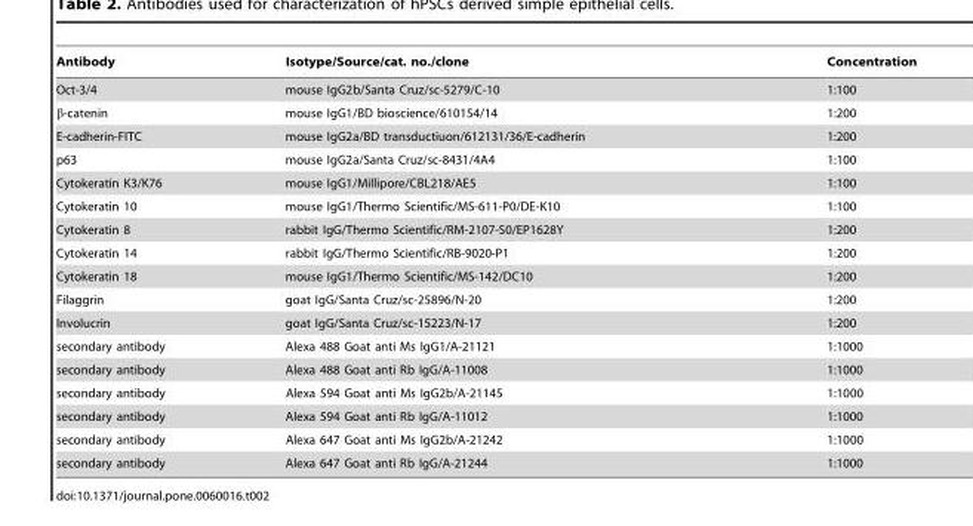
<table><thead><tr><td>Antibody</td><td>Isotype/Source/cat. no./clone</td><td>Concentration</td></tr></thead><tbody><tr><td>Oct-3/4</td><td>mouse IgG2b/Santa Cruz/sc-5279/C-10</td><td>1:100</td></tr><tr><td>β-catenin</td><td>mouse IgG1/BD bioscience/610154/14</td><td>1:200</td></tr><tr><td>E-cadherin-FITC</td><td>mouse IgG2a/BD transductiuon/612131/36/E-cadherin</td><td>1:200</td></tr><tr><td>p63</td><td>mouse IgG2a/Santa Cruz/sc-8431/4A4</td><td>1:100</td></tr><tr><td>Cytokeratin K3/K76</td><td>mouse IgG1/Millipore/CBL218/AE5</td><td>1:100</td></tr><tr><td>Cytokeratin 10</td><td>mouse IgG1/Thermo Scientific/MS-611-P0/DE-K10</td><td>1:100</td></tr><tr><td>Cytokeratin 8</td><td>rabbit IgG/Thermo Scientific/RM-2107-S0/EP1628Y</td><td>1:200</td></tr><tr><td>Cytokeratin 14</td><td>rabbit IgG/Thermo Scientific/RB-9020-P1</td><td>1:200</td></tr><tr><td>Cytokeratin 18</td><td>mouse IgG1/Thermo Scientific/MS-142/DC10</td><td>1:200</td></tr><tr><td>Filaggrin</td><td>goat IgG/Santa Cruz/sc-25896/N-20</td><td>1:200</td></tr><tr><td>Involucrin</td><td>goat IgG/Santa Cruz/sc-15223/N-17</td><td>1:200</td></tr><tr><td>secondary antibody</td><td>Alexa 488 Goat anti Ms IgG1/A-21121</td><td>1:1000</td></tr><tr><td>secondary antibody</td><td>Alexa 488 Goat anti Rb IgG/A-11008</td><td>1:1000</td></tr><tr><td>secondary antibody</td><td>Alexa 594 Goat anti Ms IgG2b/A-21145</td><td>1:1000</td></tr><tr><td>secondary antibody</td><td>Alexa 594 Goat anti Rb IgG/A-11012</td><td>1:1000</td></tr><tr><td>secondary antibody</td><td>Alexa 647 Goat anti Ms IgG2b/A-21242</td><td>1:1000</td></tr><tr><td>secondary antibody</td><td>Alexa 647 Goat anti Rb IgG/A-21244</td><td>1:1000</td></tr></tbody></table>